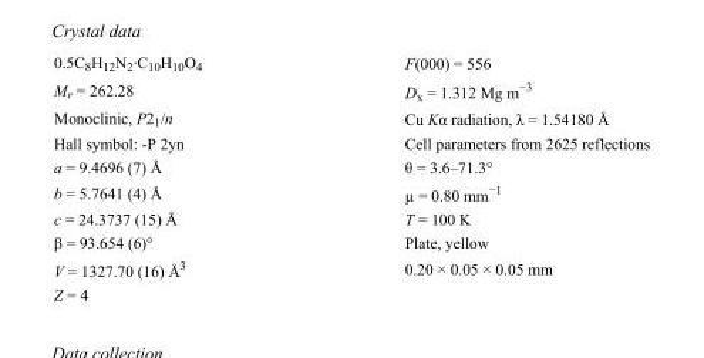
<table><tbody><tr><td>0.5C<sub>8</sub>H<sub>12</sub>N<sub>2</sub>·C<sub>10</sub>H<sub>10</sub>O<sub>4</sub></td><td>F(000) = 556</td></tr><tr><td>M<sub>r</sub> = 262.28</td><td>D<sub>x</sub> = 1.312 Mg m<sup>−3</sup></td></tr><tr><td>Monoclinic, P2<sub>1</sub>/n</td><td>Cu Kα radiation, λ = 1.54180 Å</td></tr><tr><td>Hall symbol: -P 2yn</td><td>Cell parameters from 2625 reflections</td></tr><tr><td>a = 9.4696 (7) Å</td><td>θ = 3.6–71.3°</td></tr><tr><td>b = 5.7641 (4) Å</td><td>µ = 0.80 mm<sup>−1</sup></td></tr><tr><td>c = 24.3737 (15) Å</td><td>T = 100 K</td></tr><tr><td>β = 93.654 (6)°</td><td>Plate, yellow</td></tr><tr><td>V = 1327.70 (16) Å<sup>3</sup></td><td>0.20 × 0.05 × 0.05 mm</td></tr><tr><td>Z = 4</td><td></td></tr></tbody></table>